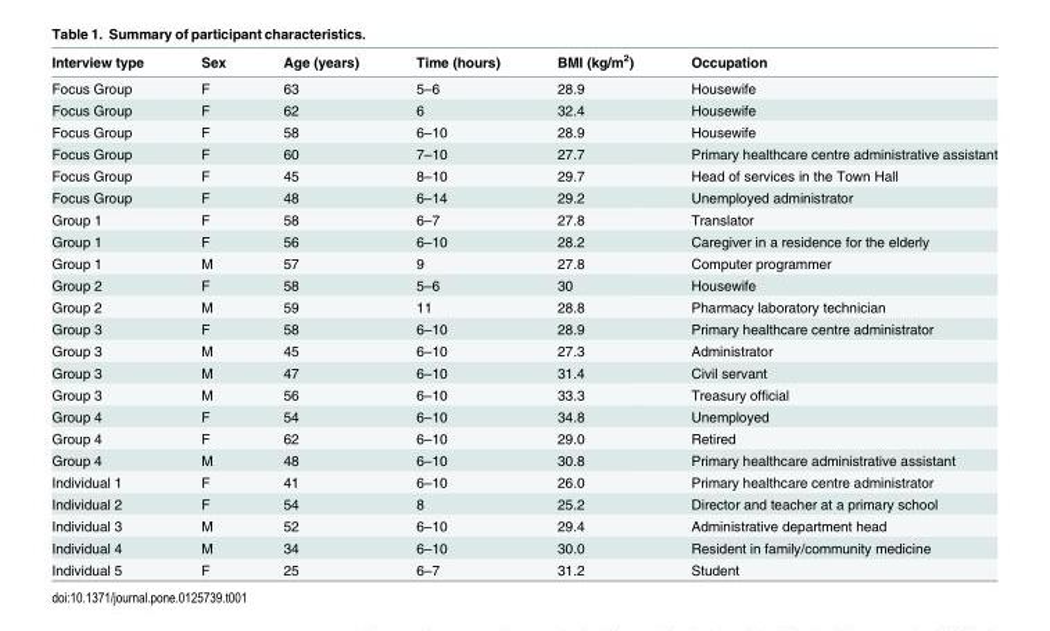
<table><thead><tr><td>Interview type</td><td>Sex</td><td>Age (years)</td><td>Time (hours)</td><td>BMI (kg/m<sup>2</sup>)</td><td>Occupation</td></tr></thead><tbody><tr><td>Focus Group</td><td>F</td><td>63</td><td>5–6</td><td>28.9</td><td>Housewife</td></tr><tr><td>Focus Group</td><td>F</td><td>62</td><td>6</td><td>32.4</td><td>Housewife</td></tr><tr><td>Focus Group</td><td>F</td><td>58</td><td>6–10</td><td>28.9</td><td>Housewife</td></tr><tr><td>Focus Group</td><td>F</td><td>60</td><td>7–10</td><td>27.7</td><td>Primary healthcare centre administrative assistant</td></tr><tr><td>Focus Group</td><td>F</td><td>45</td><td>8–10</td><td>29.7</td><td>Head of services in the Town Hall</td></tr><tr><td>Focus Group</td><td>F</td><td>48</td><td>6–14</td><td>29.2</td><td>Unemployed administrator</td></tr><tr><td>Group 1</td><td>F</td><td>58</td><td>6–7</td><td>27.8</td><td>Translator</td></tr><tr><td>Group 1</td><td>F</td><td>56</td><td>6–10</td><td>28.2</td><td>Caregiver in a residence for the elderly</td></tr><tr><td>Group 1</td><td>M</td><td>57</td><td>9</td><td>27.8</td><td>Computer programmer</td></tr><tr><td>Group 2</td><td>F</td><td>58</td><td>5–6</td><td>30</td><td>Housewife</td></tr><tr><td>Group 2</td><td>M</td><td>59</td><td>11</td><td>28.8</td><td>Pharmacy laboratory technician</td></tr><tr><td>Group 3</td><td>F</td><td>58</td><td>6–10</td><td>28.9</td><td>Primary healthcare centre administrator</td></tr><tr><td>Group 3</td><td>M</td><td>45</td><td>6–10</td><td>27.3</td><td>Administrator</td></tr><tr><td>Group 3</td><td>M</td><td>47</td><td>6–10</td><td>31.4</td><td>Civil servant</td></tr><tr><td>Group 3</td><td>M</td><td>56</td><td>6–10</td><td>33.3</td><td>Treasury official</td></tr><tr><td>Group 4</td><td>F</td><td>54</td><td>6–10</td><td>34.8</td><td>Unemployed</td></tr><tr><td>Group 4</td><td>F</td><td>62</td><td>6–10</td><td>29.0</td><td>Retired</td></tr><tr><td>Group 4</td><td>M</td><td>48</td><td>6–10</td><td>30.8</td><td>Primary healthcare administrative assistant</td></tr><tr><td>Individual 1</td><td>F</td><td>41</td><td>6–10</td><td>26.0</td><td>Primary healthcare centre administrator</td></tr><tr><td>Individual 2</td><td>F</td><td>54</td><td>8</td><td>25.2</td><td>Director and teacher at a primary school</td></tr><tr><td>Individual 3</td><td>M</td><td>52</td><td>6–10</td><td>29.4</td><td>Administrative department head</td></tr><tr><td>Individual 4</td><td>M</td><td>34</td><td>6–10</td><td>30.0</td><td>Resident in family/community medicine</td></tr><tr><td>Individual 5</td><td>F</td><td>25</td><td>6–7</td><td>31.2</td><td>Student</td></tr></tbody></table>